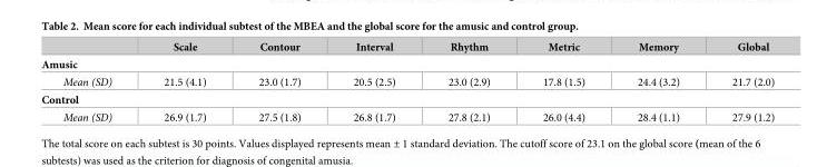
<table><thead><tr><td></td><td>Scale</td><td>Contour</td><td>Interval</td><td>Rhythm</td><td>Metric</td><td>Memory</td><td>Global</td></tr></thead><tbody><tr><td colspan="8">Amusic</td></tr><tr><td>Mean (SD)</td><td>21.5 (4.1)</td><td>23.0 (1.7)</td><td>20.5 (2.5)</td><td>23.0 (2.9)</td><td>17.8 (1.5)</td><td>24.4 (3.2)</td><td>21.7 (2.0)</td></tr><tr><td colspan="8">Control</td></tr><tr><td>Mean (SD)</td><td>26.9 (1.7)</td><td>27.5 (1.8)</td><td>26.8 (1.7)</td><td>27.8 (2.1)</td><td>26.0 (4.4)</td><td>28.4 (1.1)</td><td>27.9 (1.2)</td></tr></tbody></table>